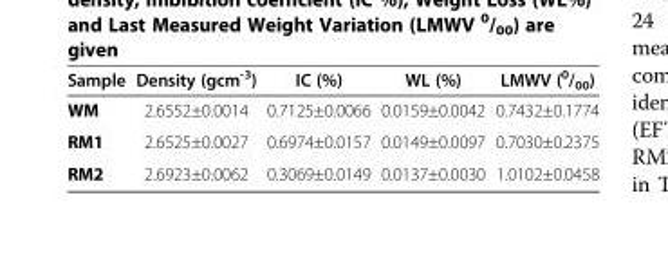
<table><thead><tr><td>Sample</td><td>Density (gcm<sup>-3</sup>)</td><td>IC (%)</td><td>WL (%)</td><td>LMWV (<sup>0</sup>/<sub>00</sub>)</td></tr></thead><tbody><tr><td>WM</td><td>2.6552±0.0014</td><td>0.7125±0.0066</td><td>0.0159±0.0042</td><td>0.7432±0.1774</td></tr><tr><td>RM1</td><td>2.6525±0.0027</td><td>0.6974±0.0157</td><td>0.0149±0.0097</td><td>0.7030±0.2375</td></tr><tr><td>RM2</td><td>2.6923±0.0062</td><td>0.3069±0.0149</td><td>0.0137±0.0030</td><td>1.0102±0.0458</td></tr></tbody></table>